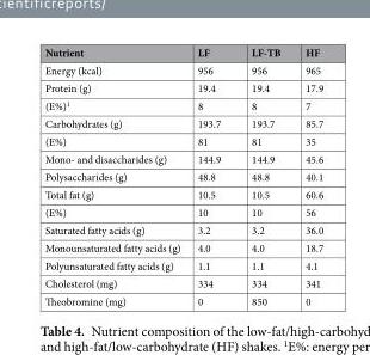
<table><thead><tr><td>Nutrient</td><td>LF</td><td>LF-TB</td><td>HF</td></tr></thead><tbody><tr><td>Energy (kcal)</td><td>956</td><td>956</td><td>965</td></tr><tr><td>Protein (g)</td><td>19.4</td><td>19.4</td><td>17.9</td></tr><tr><td>(E%)<sup>1</sup></td><td>8</td><td>8</td><td>7</td></tr><tr><td>Carbohydrates (g)</td><td>193.7</td><td>193.7</td><td>85.7</td></tr><tr><td>(E%)</td><td>81</td><td>81</td><td>35</td></tr><tr><td>Mono- and disaccharides (g)</td><td>144.9</td><td>144.9</td><td>45.6</td></tr><tr><td>Polysaccharides (g)</td><td>48.8</td><td>48.8</td><td>40.1</td></tr><tr><td>Total fat (g)</td><td>10.5</td><td>10.5</td><td>60.6</td></tr><tr><td>(E%)</td><td>10</td><td>10</td><td>56</td></tr><tr><td>Saturated fatty acids (g)</td><td>3.2</td><td>3.2</td><td>36.0</td></tr><tr><td>Monounsaturated fatty acids (g)</td><td>4.0</td><td>4.0</td><td>18.7</td></tr><tr><td>Polyunsaturated fatty acids (g)</td><td>1.1</td><td>1.1</td><td>4.1</td></tr><tr><td>Cholesterol (mg)</td><td>334</td><td>334</td><td>341</td></tr><tr><td>Theobromine (mg)</td><td>0</td><td>850</td><td>0</td></tr></tbody></table>